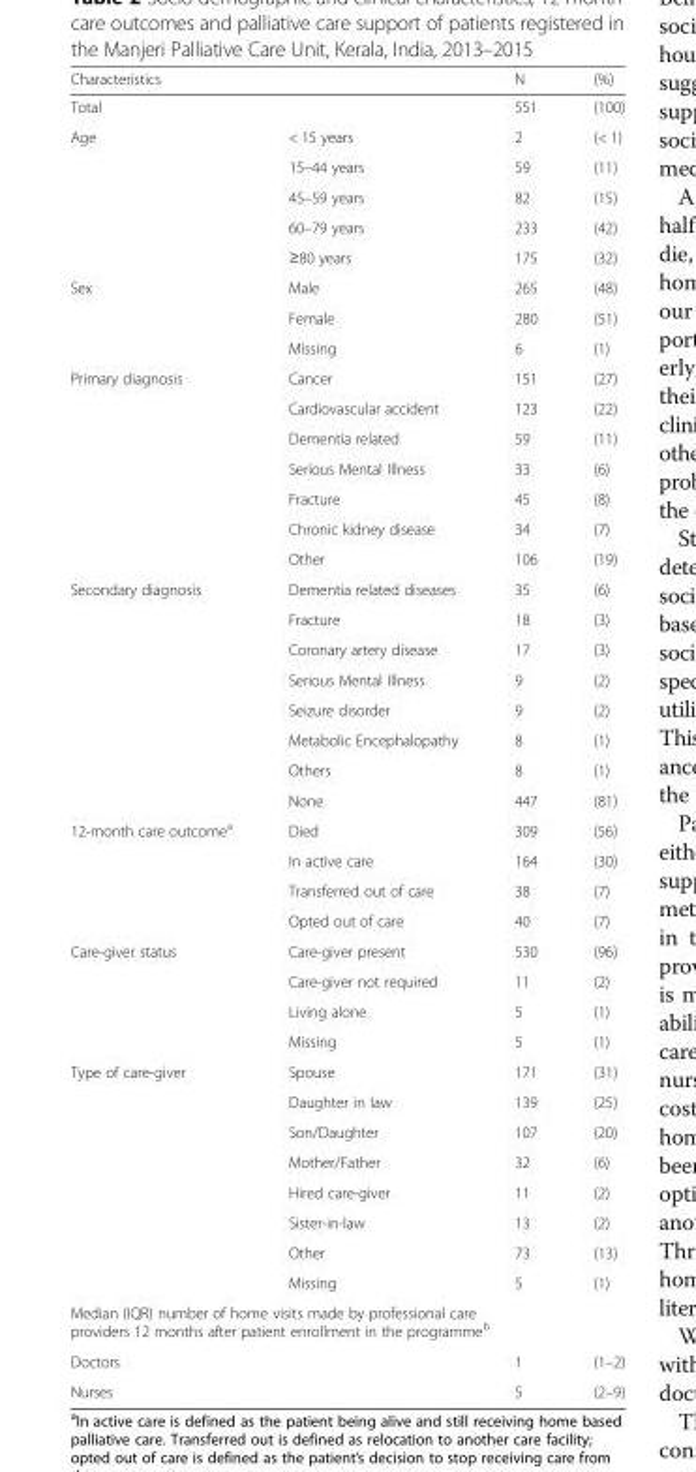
<table><thead><tr><td>Characteristics</td><td></td><td>N</td><td>(%)</td></tr></thead><tbody><tr><td>Total</td><td></td><td>551</td><td>(100)</td></tr><tr><td rowspan="5">Age</td><td>&lt; 15 years</td><td>2</td><td>(&lt; 1)</td></tr><tr><td>15–44 years</td><td>59</td><td>(11)</td></tr><tr><td>45–59 years</td><td>82</td><td>(15)</td></tr><tr><td>60–79 years</td><td>233</td><td>(42)</td></tr><tr><td>≥80 years</td><td>175</td><td>(32)</td></tr><tr><td rowspan="3">Sex</td><td>Male</td><td>265</td><td>(48)</td></tr><tr><td>Female</td><td>280</td><td>(51)</td></tr><tr><td>Missing</td><td>6</td><td>(1)</td></tr><tr><td rowspan="7">Primary diagnosis</td><td>Cancer</td><td>151</td><td>(27)</td></tr><tr><td>Cardiovascular accident</td><td>123</td><td>(22)</td></tr><tr><td>Dementia related</td><td>59</td><td>(11)</td></tr><tr><td>Serious Mental Illness</td><td>33</td><td>(6)</td></tr><tr><td>Fracture</td><td>45</td><td>(8)</td></tr><tr><td>Chronic kidney disease</td><td>34</td><td>(7)</td></tr><tr><td>Other</td><td>106</td><td>(19)</td></tr><tr><td rowspan="8">Secondary diagnosis</td><td>Dementia related diseases</td><td>35</td><td>(6)</td></tr><tr><td>Fracture</td><td>18</td><td>(3)</td></tr><tr><td>Coronary artery disease</td><td>17</td><td>(3)</td></tr><tr><td>Serious Mental Illness</td><td>9</td><td>(2)</td></tr><tr><td>Seizure disorder</td><td>9</td><td>(2)</td></tr><tr><td>Metabolic Encephalopathy</td><td>8</td><td>(1)</td></tr><tr><td>Others</td><td>8</td><td>(1)</td></tr><tr><td>None</td><td>447</td><td>(81)</td></tr><tr><td rowspan="4">12-month care outcome<sup>a</sup></td><td>Died</td><td>309</td><td>(56)</td></tr><tr><td>In active care</td><td>164</td><td>(30)</td></tr><tr><td>Transferred out of care</td><td>38</td><td>(7)</td></tr><tr><td>Opted out of care</td><td>40</td><td>(7)</td></tr><tr><td rowspan="4">Care-giver status</td><td>Care-giver present</td><td>530</td><td>(96)</td></tr><tr><td>Care-giver not required</td><td>11</td><td>(2)</td></tr><tr><td>Living alone</td><td>5</td><td>(1)</td></tr><tr><td>Missing</td><td>5</td><td>(1)</td></tr><tr><td rowspan="8">Type of care-giver</td><td>Spouse</td><td>171</td><td>(31)</td></tr><tr><td>Daughter in law</td><td>139</td><td>(25)</td></tr><tr><td>Son/Daughter</td><td>107</td><td>(20)</td></tr><tr><td>Mother/Father</td><td>32</td><td>(6)</td></tr><tr><td>Hired care-giver</td><td>11</td><td>(2)</td></tr><tr><td>Sister-in-law</td><td>13</td><td>(2)</td></tr><tr><td>Other</td><td>73</td><td>(13)</td></tr><tr><td>Missing</td><td>5</td><td>(1)</td></tr><tr><td colspan="4">Median (IQR) number of home visits made by professional care providers 12 months after patient enrollment in the programme<sup>b</sup></td></tr><tr><td>Doctors</td><td></td><td>1</td><td>(1–2)</td></tr><tr><td>Nurses</td><td></td><td>5</td><td>(2–9)</td></tr></tbody></table>